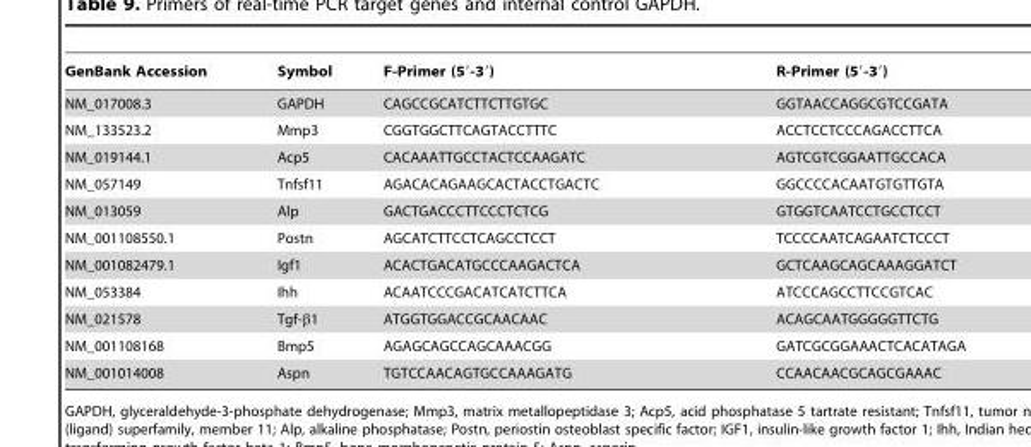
<table><thead><tr><td>GenBank Accession</td><td>Symbol</td><td>F-Primer (5′-3′)</td><td>R-Primer (5′-3′)</td></tr></thead><tbody><tr><td>NM_017008.3</td><td>GAPDH</td><td>CAGCCGCATCTTCTTGTGC</td><td>GGTAACCAGGCGTCCGATA</td></tr><tr><td>NM_133523.2</td><td>Mmp3</td><td>CGGTGGCTTCAGTACCTTTC</td><td>ACCTCCTCCCAGACCTTCA</td></tr><tr><td>NM_019144.1</td><td>Acp5</td><td>CACAAATTGCCTACTCCAAGATC</td><td>AGTCGTCGGAATTGCCACA</td></tr><tr><td>NM_057149</td><td>Tnfsf11</td><td>AGACACAGAAGCACTACCTGACTC</td><td>GGCCCCACAATGTGTTGTA</td></tr><tr><td>NM_013059</td><td>Alp</td><td>GACTGACCCTTCCCTCTCG</td><td>GTGGTCAATCCTGCCTCCT</td></tr><tr><td>NM_001108550.1</td><td>Postn</td><td>AGCATCTTCCTCAGCCTCCT</td><td>TCCCCAATCAGAATCTCCCT</td></tr><tr><td>NM_001082479.1</td><td>Igf1</td><td>ACACTGACATGCCCAAGACTCA</td><td>GCTCAAGCAGCAAAGGATCT</td></tr><tr><td>NM_053384</td><td>Ihh</td><td>ACAATCCCGACATCATCTTCA</td><td>ATCCCAGCCTTCCGTCAC</td></tr><tr><td>NM_021578</td><td>Tgf-β1</td><td>ATGGTGGACCGCAACAAC</td><td>ACAGCAATGGGGGTTCTG</td></tr><tr><td>NM_001108168</td><td>Bmp5</td><td>AGAGCAGCCAGCAAACGG</td><td>GATCGCGGAAACTCACATAGA</td></tr><tr><td>NM_001014008</td><td>Aspn</td><td>TGTCCAACAGTGCCAAAGATG</td><td>CCAACAACGCAGCGAAAC</td></tr></tbody></table>